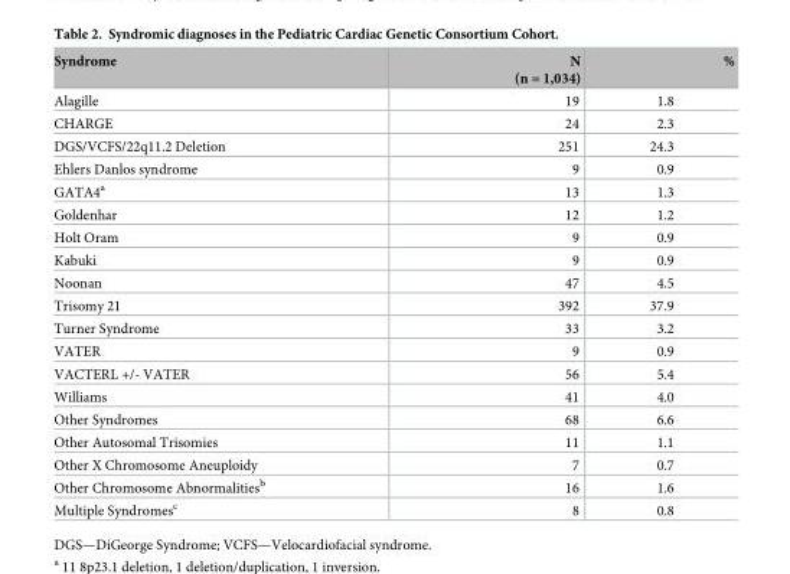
<table><thead><tr><td>Syndrome</td><td>N (n = 1,034)</td><td>%</td></tr></thead><tbody><tr><td>Alagille</td><td>19</td><td>1.8</td></tr><tr><td>CHARGE</td><td>24</td><td>2.3</td></tr><tr><td>DGS/VCFS/22q11.2 Deletion</td><td>251</td><td>24.3</td></tr><tr><td>Ehlers Danlos syndrome</td><td>9</td><td>0.9</td></tr><tr><td>GATA4<sup>a</sup></td><td>13</td><td>1.3</td></tr><tr><td>Goldenhar</td><td>12</td><td>1.2</td></tr><tr><td>Holt Oram</td><td>9</td><td>0.9</td></tr><tr><td>Kabuki</td><td>9</td><td>0.9</td></tr><tr><td>Noonan</td><td>47</td><td>4.5</td></tr><tr><td>Trisomy 21</td><td>392</td><td>37.9</td></tr><tr><td>Turner Syndrome</td><td>33</td><td>3.2</td></tr><tr><td>VATER</td><td>9</td><td>0.9</td></tr><tr><td>VACTERL +/- VATER</td><td>56</td><td>5.4</td></tr><tr><td>Williams</td><td>41</td><td>4.0</td></tr><tr><td>Other Syndromes</td><td>68</td><td>6.6</td></tr><tr><td>Other Autosomal Trisomies</td><td>11</td><td>1.1</td></tr><tr><td>Other X Chromosome Aneuploidy</td><td>7</td><td>0.7</td></tr><tr><td>Other Chromosome Abnormalities<sup>b</sup></td><td>16</td><td>1.6</td></tr><tr><td>Multiple Syndromes<sup>c</sup></td><td>8</td><td>0.8</td></tr></tbody></table>